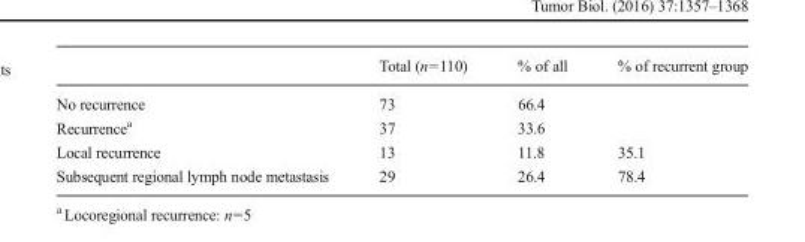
<table><thead><tr><td></td><td>Total (n=110)</td><td>% of all</td><td>% of recurrent group</td></tr></thead><tbody><tr><td>No recurrence</td><td>73</td><td>66.4</td><td></td></tr><tr><td>Recurrence<sup>a</sup></td><td>37</td><td>33.6</td><td></td></tr><tr><td>Local recurrence</td><td>13</td><td>11.8</td><td>35.1</td></tr><tr><td>Subsequent regional lymph node metastasis</td><td>29</td><td>26.4</td><td>78.4</td></tr></tbody></table>